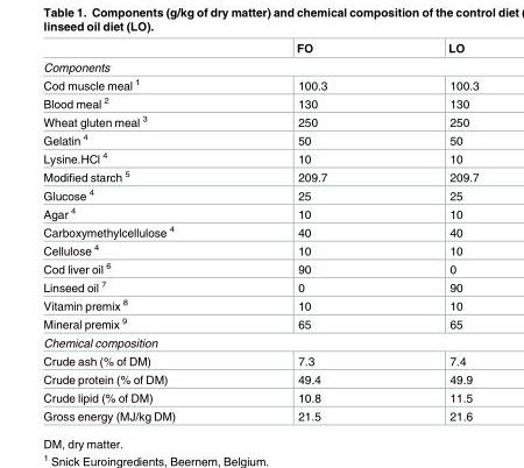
<table><thead><tr><td></td><td>FO</td><td>LO</td></tr></thead><tbody><tr><td colspan="3">Components</td></tr><tr><td>Cod muscle meal <sup>1</sup></td><td>100.3</td><td>100.3</td></tr><tr><td>Blood meal <sup>2</sup></td><td>130</td><td>130</td></tr><tr><td>Wheat gluten meal <sup>3</sup></td><td>250</td><td>250</td></tr><tr><td>Gelatin <sup>4</sup></td><td>50</td><td>50</td></tr><tr><td>Lysine.HCl <sup>4</sup></td><td>10</td><td>10</td></tr><tr><td>Modified starch <sup>5</sup></td><td>209.7</td><td>209.7</td></tr><tr><td>Glucose <sup>4</sup></td><td>25</td><td>25</td></tr><tr><td>Agar <sup>4</sup></td><td>10</td><td>10</td></tr><tr><td>Carboxymethylcellulose <sup>4</sup></td><td>40</td><td>40</td></tr><tr><td>Cellulose <sup>4</sup></td><td>10</td><td>10</td></tr><tr><td>Cod liver oil <sup>6</sup></td><td>90</td><td>0</td></tr><tr><td>Linseed oil <sup>7</sup></td><td>0</td><td>90</td></tr><tr><td>Vitamin premix <sup>8</sup></td><td>10</td><td>10</td></tr><tr><td>Mineral premix <sup>9</sup></td><td>65</td><td>65</td></tr><tr><td colspan="3">Chemical composition</td></tr><tr><td>Crude ash (% of DM)</td><td>7.3</td><td>7.4</td></tr><tr><td>Crude protein (% of DM)</td><td>49.4</td><td>49.9</td></tr><tr><td>Crude lipid (% of DM)</td><td>10.8</td><td>11.5</td></tr><tr><td>Gross energy (MJ/kg DM)</td><td>21.5</td><td>21.6</td></tr></tbody></table>